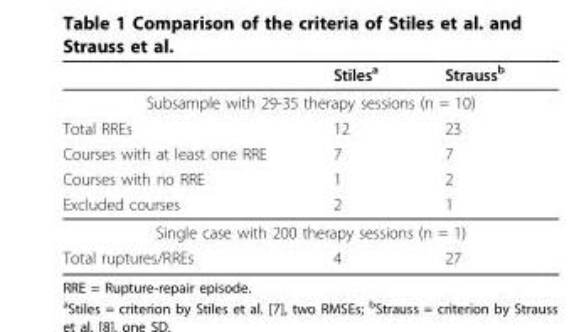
<table><thead><tr><td></td><td>Stiles<sup>a</sup></td><td>Strauss<sup>b</sup></td></tr></thead><tbody><tr><td colspan="3">Subsample with 29-35 therapy sessions (n = 10)</td></tr><tr><td>Total RREs</td><td>12</td><td>23</td></tr><tr><td>Courses with at least one RRE</td><td>7</td><td>7</td></tr><tr><td>Courses with no RRE</td><td>1</td><td>2</td></tr><tr><td>Excluded courses</td><td>2</td><td>1</td></tr><tr><td colspan="3">Single case with 200 therapy sessions (n = 1)</td></tr><tr><td>Total ruptures/RREs</td><td>4</td><td>27</td></tr></tbody></table>